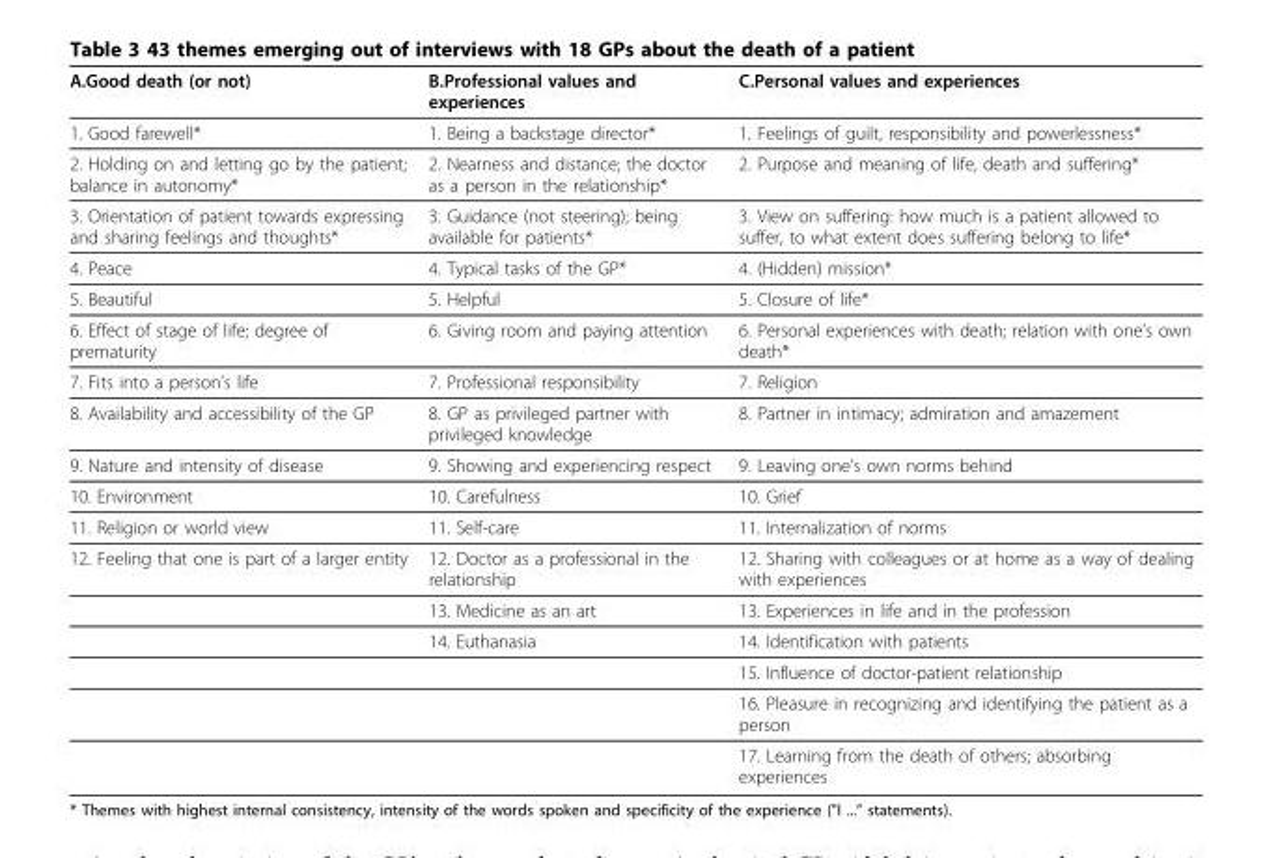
<table><thead><tr><td>A.Good death (or not)</td><td>B.Professional values and experiences</td><td>C.Personal values and experiences</td></tr></thead><tbody><tr><td>1. Good farewell*</td><td>1. Being a backstage director*</td><td>1. Feelings of guilt, responsibility and powerlessness*</td></tr><tr><td>2. Holding on and letting go by the patient; balance in autonomy*</td><td>2. Nearness and distance; the doctor as a person in the relationship*</td><td>2. Purpose and meaning of life, death and suffering*</td></tr><tr><td>3. Orientation of patient towards expressing and sharing feelings and thoughts*</td><td>3. Guidance (not steering); being available for patients*</td><td>3. View on suffering: how much is a patient allowed to suffer, to what extent does suffering belong to life*</td></tr><tr><td>4. Peace</td><td>4. Typical tasks of the GP*</td><td>4. (Hidden) mission*</td></tr><tr><td>5. Beautiful</td><td>5. Helpful</td><td>5. Closure of life*</td></tr><tr><td>6. Effect of stage of life; degree of prematurity</td><td>6. Giving room and paying attention</td><td>6. Personal experiences with death; relation with one’s own death*</td></tr><tr><td>7. Fits into a person’s life</td><td>7. Professional responsibility</td><td>7. Religion</td></tr><tr><td>8. Availability and accessibility of the GP</td><td>8. GP as privileged partner with privileged knowledge</td><td>8. Partner in intimacy; admiration and amazement</td></tr><tr><td>9. Nature and intensity of disease</td><td>9. Showing and experiencing respect</td><td>9. Leaving one’s own norms behind</td></tr><tr><td>10. Environment</td><td>10. Carefulness</td><td>10. Grief</td></tr><tr><td>11. Religion or world view</td><td>11. Self-care</td><td>11. Internalization of norms</td></tr><tr><td rowspan="6">12. Feeling that one is part of a larger entity</td><td>12. Doctor as a professional in the relationship</td><td>12. Sharing with colleagues or at home as a way of dealing with experiences</td></tr><tr><td>13. Medicine as an art</td><td>13. Experiences in life and in the profession</td></tr><tr><td>14. Euthanasia</td><td>14. Identification with patients</td></tr><tr><td></td><td>15. Influence of doctor-patient relationship</td></tr><tr><td></td><td>16. Pleasure in recognizing and identifying the patient as a person</td></tr><tr><td></td><td>17. Learning from the death of others; absorbing experiences</td></tr></tbody></table>